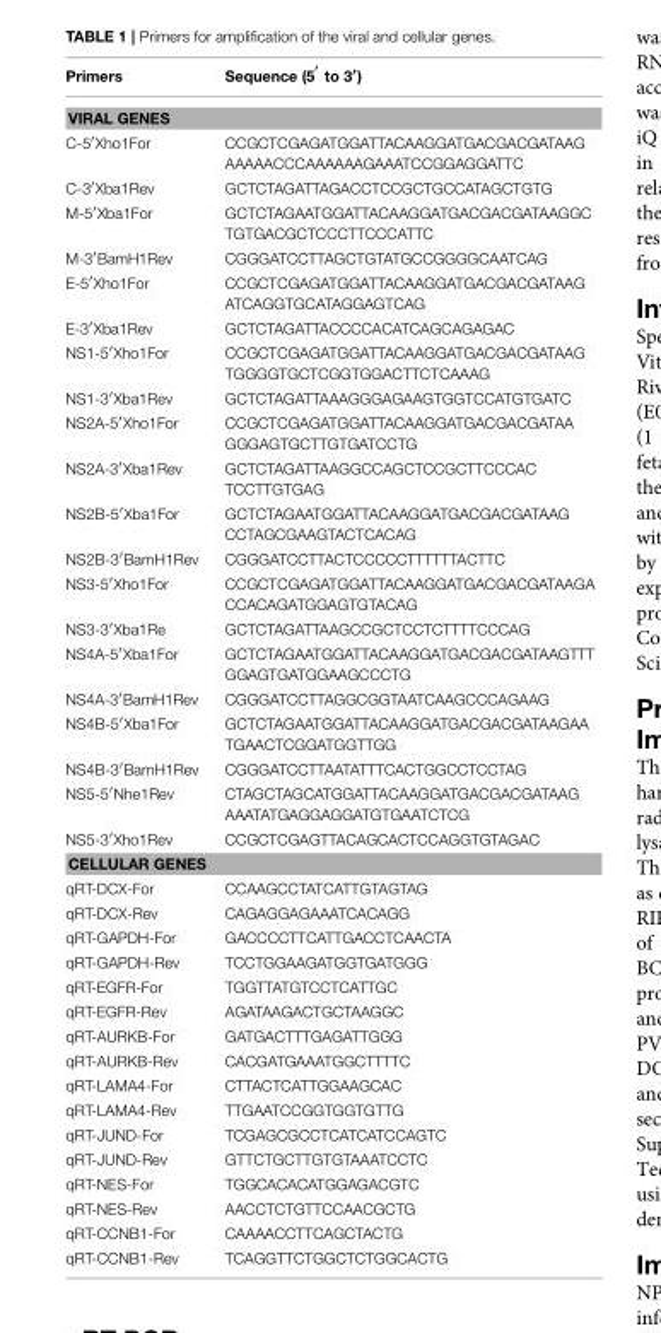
<table><thead><tr><td>Primers</td><td>Sequence (5 ′ to 3′)</td></tr></thead><tbody><tr><td colspan="2">VIRAL GENES</td></tr><tr><td>C-5′Xho1For</td><td>CCGCTCGAGATGGATTACAAGGATGACGACGATAAG AAAAACCCAAAAAAGAAATCCGGAGGATTC</td></tr><tr><td>C-3′Xba1Rev</td><td>GCTCTAGATTAGACCTCCGCTGCCATAGCTGTG</td></tr><tr><td>M-5′Xba1For</td><td>GCTCTAGAATGGATTACAAGGATGACGACGATAAGGC TGTGACGCTCCCTTCCCATTC</td></tr><tr><td>M-3′BamH1Rev</td><td>CGGGATCCTTAGCTGTATGCCGGGGCAATCAG</td></tr><tr><td>E-5′Xho1For</td><td>CCGCTCGAGATGGATTACAAGGATGACGACGATAAG ATCAGGTGCATAGGAGTCAG</td></tr><tr><td>E-3′Xba1Rev</td><td>GCTCTAGATTACCCCACATCAGCAGAGAC</td></tr><tr><td>NS1-5′Xho1For</td><td>CCGCTCGAGATGGATTACAAGGATGACGACGATAAG TGGGGTGCTCGGTGGACTTCTCAAAG</td></tr><tr><td>NS1-3′Xba1Rev</td><td>GCTCTAGATTAAAGGGAGAAGTGGTCCATGTGATC</td></tr><tr><td>NS2A-5′Xho1For</td><td>CCGCTCGAGATGGATTACAAGGATGACGACGATAA GGGAGTGCTTGTGATCCTG</td></tr><tr><td>NS2A-3′Xba1Rev</td><td>GCTCTAGATTAAGGCCAGCTCCGCTTCCCAC TCCTTGTGAG</td></tr><tr><td>NS2B-5′Xba1For</td><td>GCTCTAGAATGGATTACAAGGATGACGACGATAAG CCTAGCGAAGTACTCACAG</td></tr><tr><td>NS2B-3′BamH1Rev</td><td>CGGGATCCTTACTCCCCCTTTTTTACTTC</td></tr><tr><td>NS3-5′Xho1For</td><td>CCGCTCGAGATGGATTACAAGGATGACGACGATAAGA CCACAGATGGAGTGTACAG</td></tr><tr><td>NS3-3′Xba1Re</td><td>GCTCTAGATTAAGCCGCTCCTCTTTTCCCAG</td></tr><tr><td>NS4A-5′Xba1For</td><td>GCTCTAGAATGGATTACAAGGATGACGACGATAAGTTT GGAGTGATGGAAGCCCTG</td></tr><tr><td>NS4A-3′BamH1Rev</td><td>CGGGATCCTTAGGCGGTAATCAAGCCCAGAAG</td></tr><tr><td>NS4B-5′Xba1For</td><td>GCTCTAGAATGGATTACAAGGATGACGACGATAAGAA TGAACTCGGATGGTTGG</td></tr><tr><td>NS4B-3′BamH1Rev</td><td>CGGGATCCTTAATATTTCACTGGCCTCCTAG</td></tr><tr><td>NS5-5′Nhe1Rev</td><td>CTAGCTAGCATGGATTACAAGGATGACGACGATAAG AAATATGAGGAGGATGTGAATCTCG</td></tr><tr><td>NS5-3′Xho1Rev</td><td>CCGCTCGAGTTACAGCACTCCAGGTGTAGAC</td></tr><tr><td colspan="2">CELLULAR GENES</td></tr><tr><td>qRT-DCX-For</td><td>CCAAGCCTATCATTGTAGTAG</td></tr><tr><td>qRT-DCX-Rev</td><td>CAGAGGAGAAATCACAGG</td></tr><tr><td>qRT-GAPDH-For</td><td>GACCCCTTCATTGACCTCAACTA</td></tr><tr><td>qRT-GAPDH-Rev</td><td>TCCTGGAAGATGGTGATGGG</td></tr><tr><td>qRT-EGFR-For</td><td>TGGTTATGTCCTCATTGC</td></tr><tr><td>qRT-EGFR-Rev</td><td>AGATAAGACTGCTAAGGC</td></tr><tr><td>qRT-AURKB-For</td><td>GATGACTTTGAGATTGGG</td></tr><tr><td>qRT-AURKB-Rev</td><td>CACGATGAAATGGCTTTTC</td></tr><tr><td>qRT-LAMA4-For</td><td>CTTACTCATTGGAAGCAC</td></tr><tr><td>qRT-LAMA4-Rev</td><td>TTGAATCCGGTGGTGTTG</td></tr><tr><td>qRT-JUND-For</td><td>TCGAGCGCCTCATCATCCAGTC</td></tr><tr><td>qRT-JUND-Rev</td><td>GTTCTGCTTGTGTAAATCCTC</td></tr><tr><td>qRT-NES-For</td><td>TGGCACACATGGAGACGTC</td></tr><tr><td>qRT-NES-Rev</td><td>AACCTCTGTTCCAACGCTG</td></tr><tr><td>qRT-CCNB1-For</td><td>CAAAACCTTCAGCTACTG</td></tr><tr><td>qRT-CCNB1-Rev</td><td>TCAGGTTCTGGCTCTGGCACTG</td></tr></tbody></table>